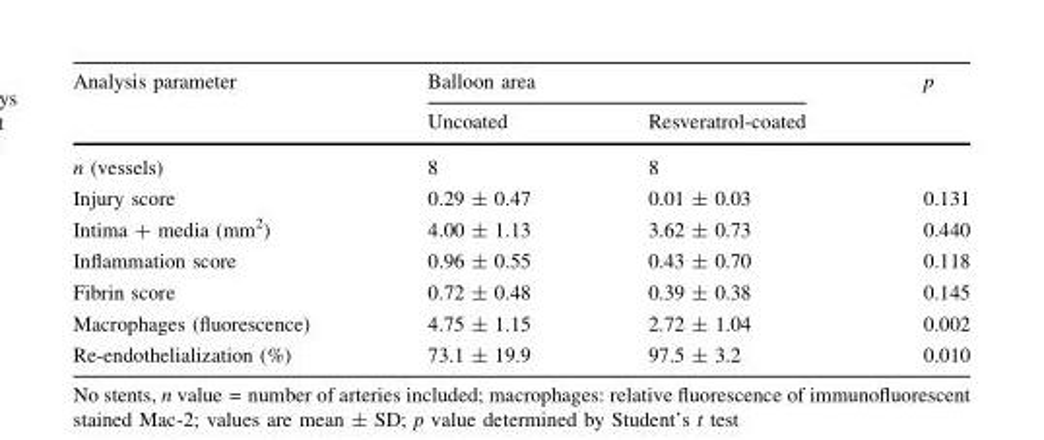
<table><thead><tr><td rowspan="2">Analysis parameter</td><td colspan="2">Balloon area</td><td rowspan="2">p</td></tr><tr><td>Uncoated</td><td>Resveratrol-coated</td></tr></thead><tbody><tr><td>n (vessels)</td><td>8</td><td>8</td><td></td></tr><tr><td>Injury score</td><td>0.29 ± 0.47</td><td>0.01 ± 0.03</td><td>0.131</td></tr><tr><td>Intima + media (mm<sup>2</sup>)</td><td>4.00 ± 1.13</td><td>3.62 ± 0.73</td><td>0.440</td></tr><tr><td>Inflammation score</td><td>0.96 ± 0.55</td><td>0.43 ± 0.70</td><td>0.118</td></tr><tr><td>Fibrin score</td><td>0.72 ± 0.48</td><td>0.39 ± 0.38</td><td>0.145</td></tr><tr><td>Macrophages (fluorescence)</td><td>4.75 ± 1.15</td><td>2.72 ± 1.04</td><td>0.002</td></tr><tr><td>Re-endothelialization (%)</td><td>73.1 ± 19.9</td><td>97.5 ± 3.2</td><td>0.010</td></tr></tbody></table>